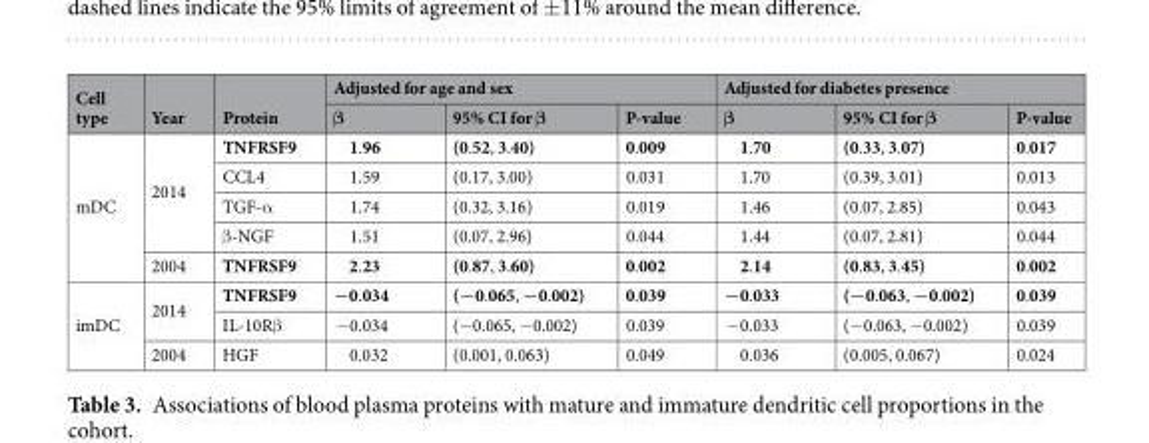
<table><thead><tr><td rowspan="2">Cell type</td><td rowspan="2">Year</td><td rowspan="2">Protein</td><td colspan="3">Adjusted for age and sex</td><td colspan="3">Adjusted for diabetes presence</td></tr><tr><td>β</td><td>95% CI for β</td><td>P-value</td><td>β</td><td>95% CI for β</td><td>P-value</td></tr></thead><tbody><tr><td rowspan="5">mDC</td><td rowspan="4">2014</td><td>TNFRSF9</td><td>1.96</td><td>(0.52, 3.40)</td><td>0.009</td><td>1.70</td><td>(0.33, 3.07)</td><td>0.017</td></tr><tr><td>CCL4</td><td>1.59</td><td>(0.17, 3.00)</td><td>0.031</td><td>1.70</td><td>(0.39, 3.01)</td><td>0.013</td></tr><tr><td>TGF-α</td><td>1.74</td><td>(0.32, 3.16)</td><td>0.019</td><td>1.46</td><td>(0.07, 2.85)</td><td>0.043</td></tr><tr><td>β-NGF</td><td>1.51</td><td>(0.07, 2.96)</td><td>0.044</td><td>1.44</td><td>(0.07, 2.81)</td><td>0.044</td></tr><tr><td>2004</td><td>TNFRSF9</td><td>2.23</td><td>(0.87, 3.60)</td><td>0.002</td><td>2.14</td><td>(0.83, 3.45)</td><td>0.002</td></tr><tr><td rowspan="3">imDC</td><td rowspan="2">2014</td><td>TNFRSF9</td><td>−0.034</td><td>(−0.065, −0.002)</td><td>0.039</td><td>−0.033</td><td>(−0.063, −0.002)</td><td>0.039</td></tr><tr><td>IL-10Rβ</td><td>−0.034</td><td>(−0.065, −0.002)</td><td>0.039</td><td>−0.033</td><td>(−0.063, −0.002)</td><td>0.039</td></tr><tr><td>2004</td><td>HGF</td><td>0.032</td><td>(0.001, 0.063)</td><td>0.049</td><td>0.036</td><td>(0.005, 0.067)</td><td>0.024</td></tr></tbody></table>